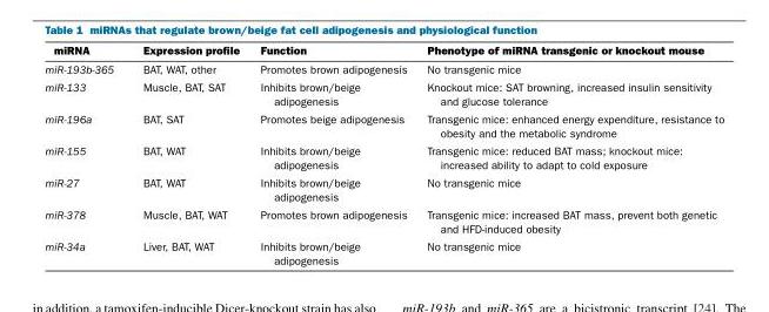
<table><thead><tr><td>miRNA</td><td>Expression profile</td><td>Function</td><td>Phenotype of miRNA transgenic or knockout mouse</td></tr></thead><tbody><tr><td>miR-193b-365</td><td>BAT, WAT, other</td><td>Promotes brown adipogenesis</td><td>No transgenic mice</td></tr><tr><td>miR-133</td><td>Muscle, BAT, SAT</td><td>Inhibits brown/beige adipogenesis</td><td>Knockout mice: SAT browning, increased insulin sensitivity and glucose tolerance</td></tr><tr><td>miR-196a</td><td>BAT, SAT</td><td>Promotes beige adipogenesis</td><td>Transgenic mice: enhanced energy expenditure, resistance to obesity and the metabolic syndrome</td></tr><tr><td>miR-155</td><td>BAT, WAT</td><td>Inhibits brown/beige adipogenesis</td><td>Transgenic mice: reduced BAT mass; knockout mice: increased ability to adapt to cold exposure</td></tr><tr><td>miR-27</td><td>BAT, WAT</td><td>Inhibits brown/beige adipogenesis</td><td>No transgenic mice</td></tr><tr><td>miR-378</td><td>Muscle, BAT, WAT</td><td>Promotes brown adipogenesis</td><td>Transgenic mice: increased BAT mass, prevent both genetic and HFD-induced obesity</td></tr><tr><td>miR-34a</td><td>Liver, BAT, WAT</td><td>Inhibits brown/beige adipogenesis</td><td>No transgenic mice</td></tr></tbody></table>